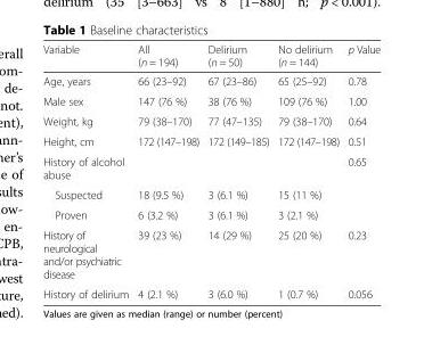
<table><thead><tr><td>Variable</td><td>All (n = 194)</td><td>Delirium (n = 50)</td><td>No delirium (n = 144)</td><td>p Value</td></tr></thead><tbody><tr><td>Age, years</td><td>66 (23–92)</td><td>67 (23–86)</td><td>65 (25–92)</td><td>0.78</td></tr><tr><td>Male sex</td><td>147 (76 %)</td><td>38 (76 %)</td><td>109 (76 %)</td><td>1.00</td></tr><tr><td>Weight, kg</td><td>79 (38–170)</td><td>77 (47–135)</td><td>79 (38–170)</td><td>0.64</td></tr><tr><td>Height, cm</td><td>172 (147–198)</td><td>172 (149–185)</td><td>172 (147–198)</td><td>0.51</td></tr><tr><td>History of alcohol abuse</td><td></td><td></td><td></td><td>0.65</td></tr><tr><td>Suspected</td><td>18 (9.5 %)</td><td>3 (6.1 %)</td><td>15 (11 %)</td><td></td></tr><tr><td>Proven</td><td>6 (3.2 %)</td><td>3 (6.1 %)</td><td>3 (2.1 %)</td><td></td></tr><tr><td>History of neurological and/or psychiatric disease</td><td>39 (23 %)</td><td>14 (29 %)</td><td>25 (20 %)</td><td>0.23</td></tr><tr><td>History of delirium</td><td>4 (2.1 %)</td><td>3 (6.0 %)</td><td>1 (0.7 %)</td><td>0.056</td></tr></tbody></table>